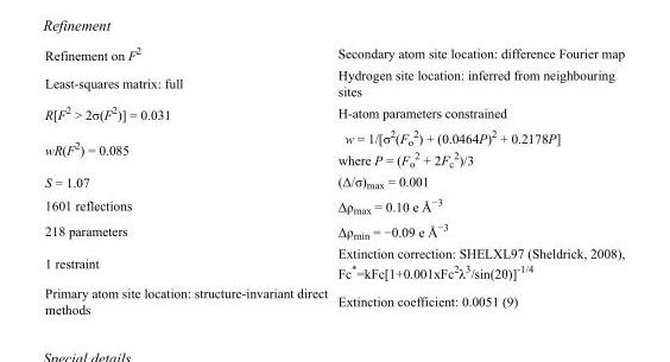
<table><tbody><tr><td>Refinement on F<sup>2</sup></td><td>Secondary atom site location: difference Fourier map</td></tr><tr><td>Least-squares matrix: full</td><td>Hydrogen site location: inferred from neighbouring sites</td></tr><tr><td>R[F<sup>2</sup> &gt; 2σ(F<sup>2</sup>)] = 0.031</td><td>H-atom parameters constrained</td></tr><tr><td>wR(F<sup>2</sup>) = 0.085</td><td>w = 1/[σ<sup>2</sup>(F<sub>o</sub> <sup>2</sup>) + (0.0464P)<sup>2</sup> + 0.2178P] where P = (F<sub>o</sub> <sup>2</sup> + 2F<sub>c</sub> <sup>2</sup>)/3</td></tr><tr><td>S = 1.07</td><td>(Δ/σ)<sub>max</sub> = 0.001</td></tr><tr><td>1601 reflections</td><td>Δρ<sub>max</sub> = 0.10 e Å<sup>−3</sup></td></tr><tr><td>218 parameters</td><td>Δρ<sub>min</sub> = −0.09 e Å<sup>−3</sup></td></tr><tr><td>1 restraint</td><td>Extinction correction: SHELXL97 (Sheldrick, 2008), Fc*=kFc[1+0.001xFc<sup>2</sup>λ<sup>3</sup>/sin(2θ)]<sup>-1/4</sup></td></tr><tr><td>Primary atom site location: structure-invariant direct methods</td><td>Extinction coefficient: 0.0051 (9)</td></tr></tbody></table>